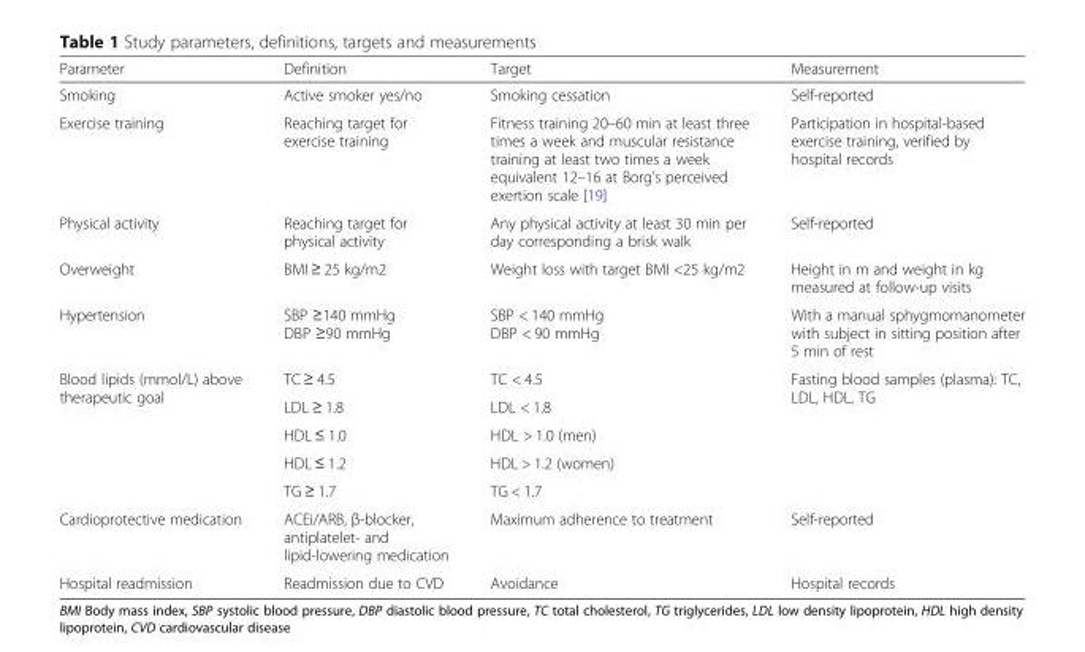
<table><thead><tr><td>Parameter</td><td>Definition</td><td>Target</td><td>Measurement</td></tr></thead><tbody><tr><td>Smoking</td><td>Active smoker yes/no</td><td>Smoking cessation</td><td>Self-reported</td></tr><tr><td>Exercise training</td><td>Reaching target for exercise training</td><td>Fitness training 20–60 min at least three times a week and muscular resistance training at least two times a week equivalent 12–16 at Borg’s perceived exertion scale [19]</td><td>Participation in hospital-based exercise training, verified by hospital records</td></tr><tr><td>Physical activity</td><td>Reaching target for physical activity</td><td>Any physical activity at least 30 min per day corresponding a brisk walk</td><td>Self-reported</td></tr><tr><td>Overweight</td><td>BMI ≥ 25 kg/m2</td><td>Weight loss with target BMI &lt;25 kg/m2</td><td>Height in m and weight in kg measured at follow-up visits</td></tr><tr><td>Hypertension</td><td>SBP ≥140 mmHg DBP ≥90 mmHg</td><td>SBP &lt; 140 mmHg DBP &lt; 90 mmHg</td><td>With a manual sphygmomanometer with subject in sitting position after 5 min of rest</td></tr><tr><td rowspan="5">Blood lipids (mmol/L) above therapeutic goal</td><td>TC ≥ 4.5</td><td>TC &lt; 4.5</td><td rowspan="5">Fasting blood samples (plasma): TC, LDL, HDL, TG</td></tr><tr><td>LDL ≥ 1.8</td><td>LDL &lt; 1.8</td></tr><tr><td>HDL ≤ 1.0</td><td>HDL &gt; 1.0 (men)</td></tr><tr><td>HDL ≤ 1.2</td><td>HDL &gt; 1.2 (women)</td></tr><tr><td>TG ≥ 1.7</td><td>TG &lt; 1.7</td></tr><tr><td>Cardioprotective medication</td><td>ACEi/ARB, β-blocker, antiplatelet- and lipid-lowering medication</td><td>Maximum adherence to treatment</td><td>Self-reported</td></tr><tr><td>Hospital readmission</td><td>Readmission due to CVD</td><td>Avoidance</td><td>Hospital records</td></tr></tbody></table>